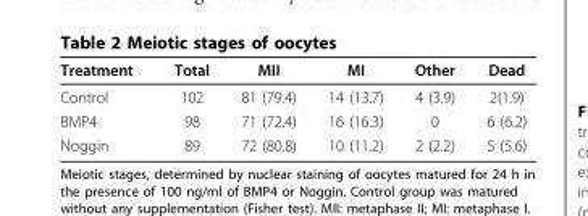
<table><thead><tr><td>Treatment</td><td>Total</td><td>MII</td><td>MI</td><td>Other</td><td>Dead</td></tr></thead><tbody><tr><td>Control</td><td>102</td><td>81 (79.4)</td><td>14 (13.7)</td><td>4 (3.9)</td><td>2(1.9)</td></tr><tr><td>BMP4</td><td>98</td><td>71 (72.4)</td><td>16 (16.3)</td><td>0</td><td>6 (6.2)</td></tr><tr><td>Noggin</td><td>89</td><td>72 (80.8)</td><td>10 (11.2)</td><td>2 (2.2)</td><td>5 (5.6)</td></tr></tbody></table>